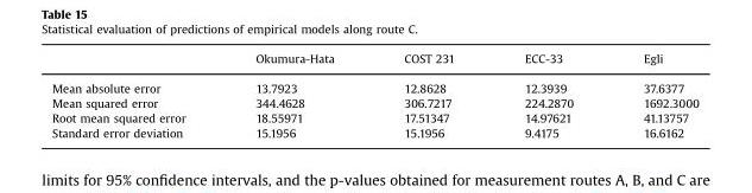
<table><thead><tr><td></td><td>Okumura-Hata</td><td>COST 231</td><td>ECC-33</td><td>Egli</td></tr></thead><tbody><tr><td>Mean absolute error</td><td>13.7923</td><td>12.8628</td><td>12.3939</td><td>37.6377</td></tr><tr><td>Mean squared error</td><td>344.4628</td><td>306.7217</td><td>224.2870</td><td>1692.3000</td></tr><tr><td>Root mean squared error</td><td>18.55971</td><td>17.51347</td><td>14.97621</td><td>41.13757</td></tr><tr><td>Standard error deviation</td><td>15.1956</td><td>15.1956</td><td>9.4175</td><td>16.6162</td></tr></tbody></table>